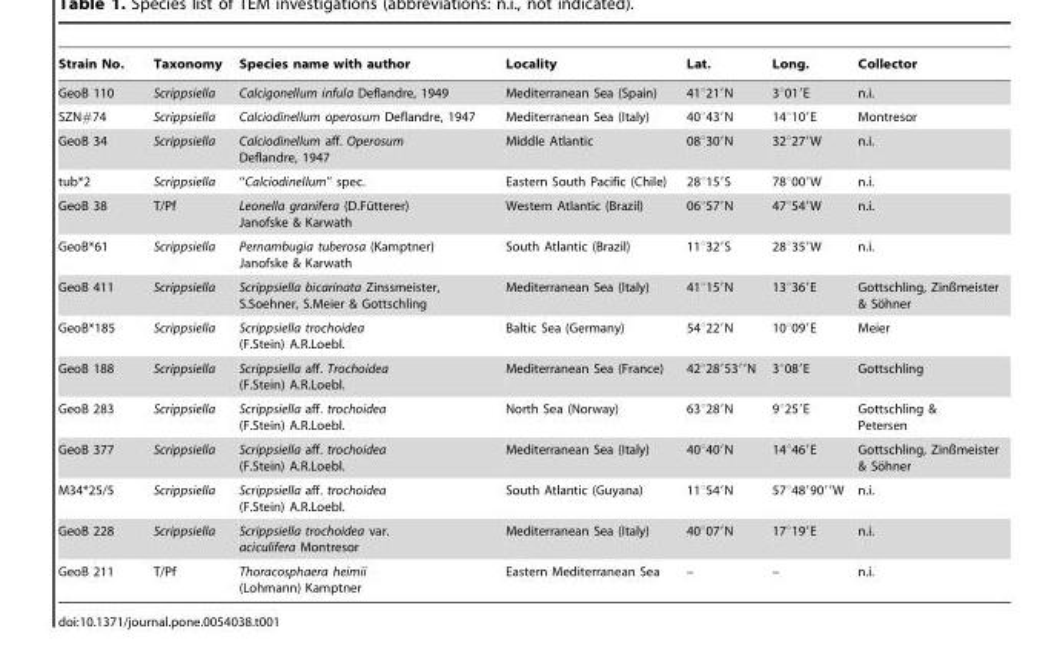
<table><thead><tr><td>Strain No.</td><td>Taxonomy</td><td>Species name with author</td><td>Locality</td><td>Lat.</td><td>Long.</td><td>Collector</td></tr></thead><tbody><tr><td>GeoB 110</td><td>Scrippsiella</td><td>Calcigonellum infula Deflandre, 1949</td><td>Mediterranean Sea (Spain)</td><td>41°21′N</td><td>3°01′E</td><td>n.i.</td></tr><tr><td>SZN#74</td><td>Scrippsiella</td><td>Calciodinellum operosum Deflandre, 1947</td><td>Mediterranean Sea (Italy)</td><td>40°43′N</td><td>14°10′E</td><td>Montresor</td></tr><tr><td>GeoB 34</td><td>Scrippsiella</td><td>Calciodinellum aff. Operosum Deflandre, 1947</td><td>Middle Atlantic</td><td>08°30′N</td><td>32°27′W</td><td>n.i.</td></tr><tr><td>tub*2</td><td>Scrippsiella</td><td>‘‘Calciodinellum’’ spec.</td><td>Eastern South Pacific (Chile)</td><td>28°15′S</td><td>78°00′W</td><td>n.i.</td></tr><tr><td>GeoB 38</td><td>T/Pf</td><td>Leonella granifera (D.Fu¨tterer) Janofske &amp; Karwath</td><td>Western Atlantic (Brazil)</td><td>06°57′N</td><td>47°54′W</td><td>n.i.</td></tr><tr><td>GeoB*61</td><td>Scrippsiella</td><td>Pernambugia tuberosa (Kamptner) Janofske &amp; Karwath</td><td>South Atlantic (Brazil)</td><td>11°32′S</td><td>28°35′W</td><td>n.i.</td></tr><tr><td>GeoB 411</td><td>Scrippsiella</td><td>Scrippsiella bicarinata Zinssmeister, S.Soehner, S.Meier &amp; Gottschling</td><td>Mediterranean Sea (Italy)</td><td>41°15′N</td><td>13°36′E</td><td>Gottschling, Zinßmeister &amp; So¨hner</td></tr><tr><td>GeoB*185</td><td>Scrippsiella</td><td>Scrippsiella trochoidea (F.Stein) A.R.Loebl.</td><td>Baltic Sea (Germany)</td><td>54°22′N</td><td>10°09′E</td><td>Meier</td></tr><tr><td>GeoB 188</td><td>Scrippsiella</td><td>Scrippsiella aff. Trochoidea (F.Stein) A.R.Loebl.</td><td>Mediterranean Sea (France)</td><td>42°28′53′′N</td><td>3°08′E</td><td>Gottschling</td></tr><tr><td>GeoB 283</td><td>Scrippsiella</td><td>Scrippsiella aff. trochoidea (F.Stein) A.R.Loebl.</td><td>North Sea (Norway)</td><td>63°28′N</td><td>9°25′E</td><td>Gottschling &amp; Petersen</td></tr><tr><td>GeoB 377</td><td>Scrippsiella</td><td>Scrippsiella aff. trochoidea (F.Stein) A.R.Loebl.</td><td>Mediterranean Sea (Italy)</td><td>40°40′N</td><td>14°46′E</td><td>Gottschling, Zinßmeister &amp; So¨hner</td></tr><tr><td>M34*25/5</td><td>Scrippsiella</td><td>Scrippsiella aff. trochoidea (F.Stein) A.R.Loebl.</td><td>South Atlantic (Guyana)</td><td>11°54′N</td><td>57°48′90′′W</td><td>n.i.</td></tr><tr><td>GeoB 228</td><td>Scrippsiella</td><td>Scrippsiella trochoidea var. aciculifera Montresor</td><td>Mediterranean Sea (Italy)</td><td>40°07′N</td><td>17°19′E</td><td>n.i.</td></tr><tr><td>GeoB 211</td><td>T/Pf</td><td>Thoracosphaera heimii (Lohmann) Kamptner</td><td>Eastern Mediterranean Sea</td><td>–</td><td>–</td><td>n.i.</td></tr></tbody></table>